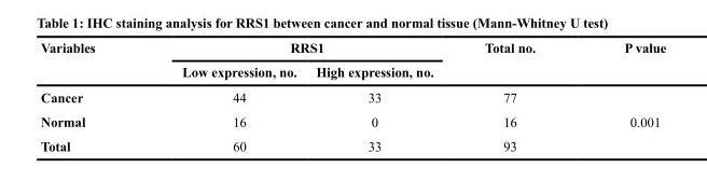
<table><thead><tr><td rowspan="2">Variables</td><td colspan="2">RRS1</td><td rowspan="2">Total no.</td><td rowspan="2">P value</td></tr><tr><td>Low expression, no.</td><td>High expression, no.</td></tr></thead><tbody><tr><td>Cancer</td><td>44</td><td>33</td><td>77</td><td></td></tr><tr><td>Normal</td><td>16</td><td>0</td><td>16</td><td>0.001</td></tr><tr><td>Total</td><td>60</td><td>33</td><td>93</td><td></td></tr></tbody></table>